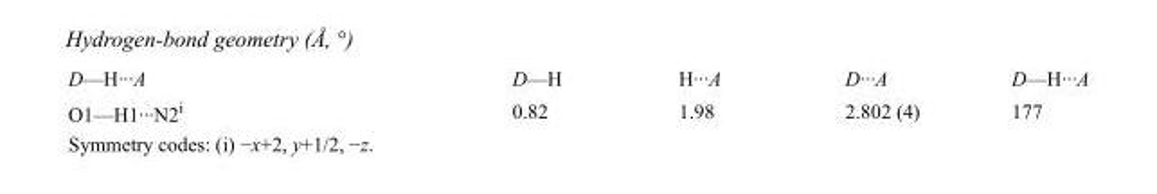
<table><tbody><tr><td>D—H···A</td><td>D—H</td><td>H···A</td><td>D···A</td><td>D—H···A</td></tr><tr><td>O1—H1···N2<sup>i</sup></td><td>0.82</td><td>1.98</td><td>2.802 (4)</td><td>177</td></tr></tbody></table>